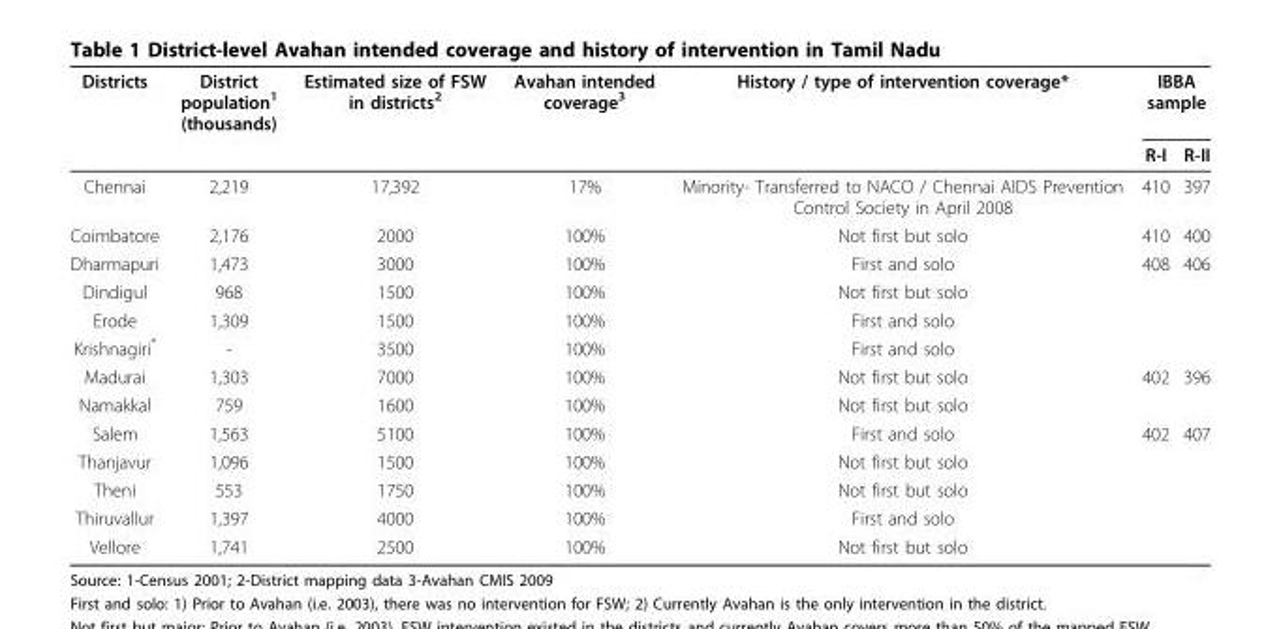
<table><thead><tr><td rowspan="2">Districts</td><td rowspan="2">District population<sup>1</sup> (thousands)</td><td rowspan="2">Estimated size of FSW in districts<sup>2</sup></td><td rowspan="2">Avahan intended coverage<sup>3</sup></td><td rowspan="2">History / type of intervention coverage*</td><td colspan="2">IBBA sample</td></tr><tr><td>R-I</td><td>R-II</td></tr></thead><tbody><tr><td>Chennai</td><td>2,219</td><td>17,392</td><td>17%</td><td>Minority- Transferred to NACO / Chennai AIDS Prevention Control Society in April 2008</td><td>410</td><td>397</td></tr><tr><td>Coimbatore</td><td>2,176</td><td>2000</td><td>100%</td><td>Not first but solo</td><td>410</td><td>400</td></tr><tr><td>Dharmapuri</td><td>1,473</td><td>3000</td><td>100%</td><td>First and solo</td><td>408</td><td>406</td></tr><tr><td>Dindigul</td><td>968</td><td>1500</td><td>100%</td><td>Not first but solo</td><td></td><td></td></tr><tr><td>Erode</td><td>1,309</td><td>1500</td><td>100%</td><td>First and solo</td><td></td><td></td></tr><tr><td>Krishnagiri*</td><td>-</td><td>3500</td><td>100%</td><td>First and solo</td><td></td><td></td></tr><tr><td>Madurai</td><td>1,303</td><td>7000</td><td>100%</td><td>Not first but solo</td><td>402</td><td>396</td></tr><tr><td>Namakkal</td><td>759</td><td>1600</td><td>100%</td><td>Not first but solo</td><td></td><td></td></tr><tr><td>Salem</td><td>1,563</td><td>5100</td><td>100%</td><td>First and solo</td><td>402</td><td>407</td></tr><tr><td>Thanjavur</td><td>1,096</td><td>1500</td><td>100%</td><td>Not first but solo</td><td></td><td></td></tr><tr><td>Theni</td><td>553</td><td>1750</td><td>100%</td><td>Not first but solo</td><td></td><td></td></tr><tr><td>Thiruvallur</td><td>1,397</td><td>4000</td><td>100%</td><td>First and solo</td><td></td><td></td></tr><tr><td>Vellore</td><td>1,741</td><td>2500</td><td>100%</td><td>Not first but solo</td><td></td><td></td></tr></tbody></table>